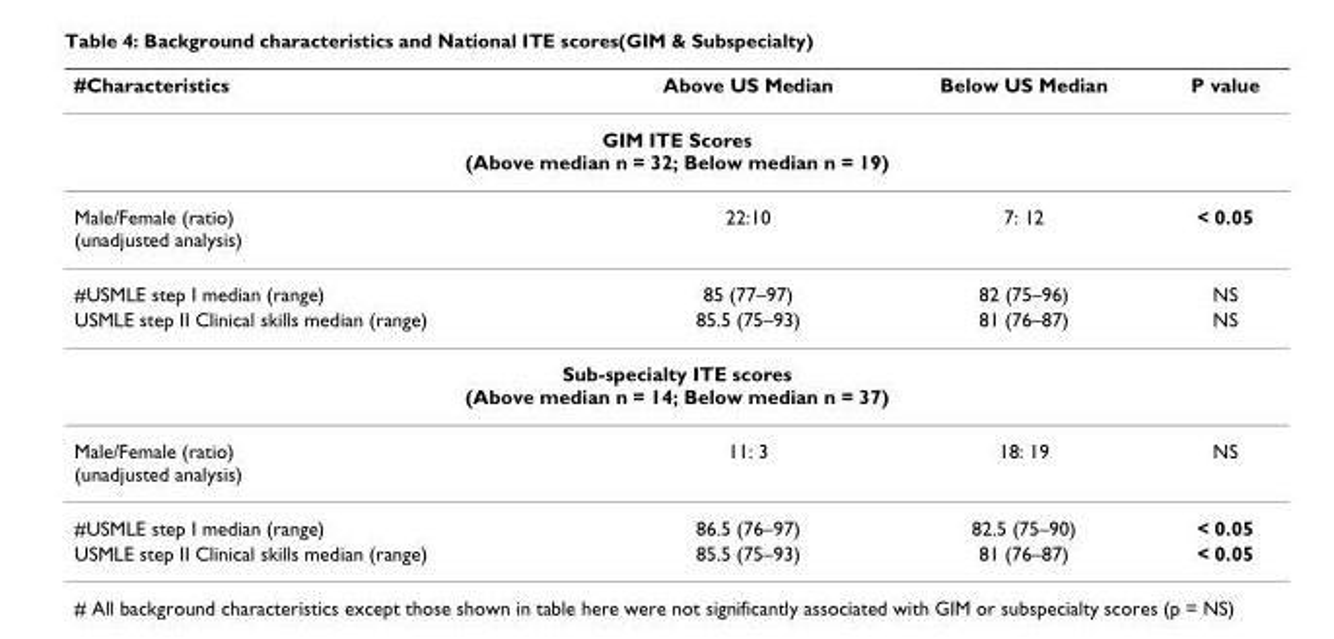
<table><thead><tr><td>#Characteristics</td><td>Above US Median</td><td>Below US Median</td><td>P value</td></tr></thead><tbody><tr><td colspan="4">GIM ITE Scores (Above median n = 32; Below median n = 19)</td></tr><tr><td>Male/Female (ratio) (unadjusted analysis)</td><td>22:10</td><td>7: 12</td><td>&lt; 0.05</td></tr><tr><td>#USMLE step I median (range)</td><td>85 (77–97)</td><td>82 (75–96)</td><td>NS</td></tr><tr><td>USMLE step II Clinical skills median (range)</td><td>85.5 (75–93)</td><td>81 (76–87)</td><td>NS</td></tr><tr><td colspan="4">Sub-specialty ITE scores (Above median n = 14; Below median n = 37)</td></tr><tr><td>Male/Female (ratio) (unadjusted analysis)</td><td>11: 3</td><td>18: 19</td><td>NS</td></tr><tr><td>#USMLE step I median (range)</td><td>86.5 (76–97)</td><td>82.5 (75–90)</td><td>&lt; 0.05</td></tr><tr><td>USMLE step II Clinical skills median (range)</td><td>85.5 (75–93)</td><td>81 (76–87)</td><td>&lt; 0.05</td></tr></tbody></table>